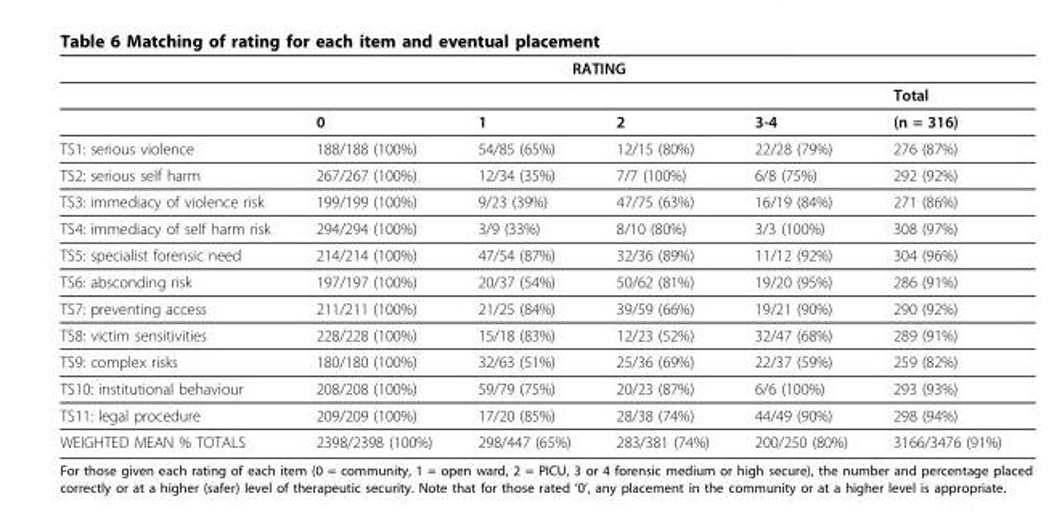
<table><thead><tr><td rowspan="2"></td><td colspan="4">RATING</td><td rowspan="2">Total</td></tr><tr><td></td><td></td><td></td><td></td></tr></thead><tbody><tr><td></td><td>0</td><td>1</td><td>2</td><td>3-4</td><td>(n = 316)</td></tr><tr><td>TS1: serious violence</td><td>188/188 (100%)</td><td>54/85 (65%)</td><td>12/15 (80%)</td><td>22/28 (79%)</td><td>276 (87%)</td></tr><tr><td>TS2: serious self harm</td><td>267/267 (100%)</td><td>12/34 (35%)</td><td>7/7 (100%)</td><td>6/8 (75%)</td><td>292 (92%)</td></tr><tr><td>TS3: immediacy of violence risk</td><td>199/199 (100%)</td><td>9/23 (39%)</td><td>47/75 (63%)</td><td>16/19 (84%)</td><td>271 (86%)</td></tr><tr><td>TS4: immediacy of self harm risk</td><td>294/294 (100%)</td><td>3/9 (33%)</td><td>8/10 (80%)</td><td>3/3 (100%)</td><td>308 (97%)</td></tr><tr><td>TS5: specialist forensic need</td><td>214/214 (100%)</td><td>47/54 (87%)</td><td>32/36 (89%)</td><td>11/12 (92%)</td><td>304 (96%)</td></tr><tr><td>TS6: absconding risk</td><td>197/197 (100%)</td><td>20/37 (54%)</td><td>50/62 (81%)</td><td>19/20 (95%)</td><td>286 (91%)</td></tr><tr><td>TS7: preventing access</td><td>211/211 (100%)</td><td>21/25 (84%)</td><td>39/59 (66%)</td><td>19/21 (90%)</td><td>290 (92%)</td></tr><tr><td>TS8: victim sensitivities</td><td>228/228 (100%)</td><td>15/18 (83%)</td><td>12/23 (52%)</td><td>32/47 (68%)</td><td>289 (91%)</td></tr><tr><td>TS9: complex risks</td><td>180/180 (100%)</td><td>32/63 (51%)</td><td>25/36 (69%)</td><td>22/37 (59%)</td><td>259 (82%)</td></tr><tr><td>TS10: institutional behaviour</td><td>208/208 (100%)</td><td>59/79 (75%)</td><td>20/23 (87%)</td><td>6/6 (100%)</td><td>293 (93%)</td></tr><tr><td>TS11: legal procedure</td><td>209/209 (100%)</td><td>17/20 (85%)</td><td>28/38 (74%)</td><td>44/49 (90%)</td><td>298 (94%)</td></tr><tr><td>WEIGHTED MEAN % TOTALS</td><td>2398/2398 (100%)</td><td>298/447 (65%)</td><td>283/381 (74%)</td><td>200/250 (80%)</td><td>3166/3476 (91%)</td></tr></tbody></table>